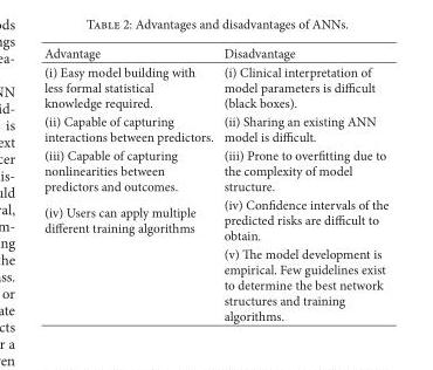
<table><thead><tr><td>Advantage</td><td>Disadvantage</td></tr></thead><tbody><tr><td>(i) Easy model building with less formal statistical knowledge required.</td><td>(i) Clinical interpretation of model parameters is difficult (black boxes).</td></tr><tr><td>(ii) Capable of capturing interactions between predictors.</td><td>(ii) Sharing an existing ANN model is difficult.</td></tr><tr><td>(iii) Capable of capturing nonlinearities between predictors and outcomes.</td><td>(iii) Prone to overfitting due to the complexity of model structure.</td></tr><tr><td rowspan="2">(iv) Users can apply multiple different training algorithms</td><td>(iv) Confidence intervals of the predicted risks are difficult to obtain.</td></tr><tr><td>(v) The model development is empirical. Few guidelines exist to determine the best network structures and training algorithms.</td></tr></tbody></table>